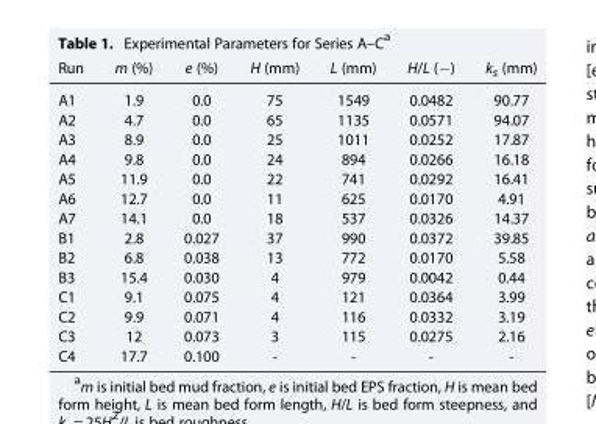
<table><thead><tr><td>Run</td><td>m (%)</td><td>e (%)</td><td>H (mm)</td><td>L (mm)</td><td>H/L (−)</td><td>k<sub>s</sub> (mm)</td></tr></thead><tbody><tr><td>A1</td><td>1.9</td><td>0.0</td><td>75</td><td>1549</td><td>0.0482</td><td>90.77</td></tr><tr><td>A2</td><td>4.7</td><td>0.0</td><td>65</td><td>1135</td><td>0.0571</td><td>94.07</td></tr><tr><td>A3</td><td>8.9</td><td>0.0</td><td>25</td><td>1011</td><td>0.0252</td><td>17.87</td></tr><tr><td>A4</td><td>9.8</td><td>0.0</td><td>24</td><td>894</td><td>0.0266</td><td>16.18</td></tr><tr><td>A5</td><td>11.9</td><td>0.0</td><td>22</td><td>741</td><td>0.0292</td><td>16.41</td></tr><tr><td>A6</td><td>12.7</td><td>0.0</td><td>11</td><td>625</td><td>0.0170</td><td>4.91</td></tr><tr><td>A7</td><td>14.1</td><td>0.0</td><td>18</td><td>537</td><td>0.0326</td><td>14.37</td></tr><tr><td>B1</td><td>2.8</td><td>0.027</td><td>37</td><td>990</td><td>0.0372</td><td>39.85</td></tr><tr><td>B2</td><td>6.8</td><td>0.038</td><td>13</td><td>772</td><td>0.0170</td><td>5.58</td></tr><tr><td>B3</td><td>15.4</td><td>0.030</td><td>4</td><td>979</td><td>0.0042</td><td>0.44</td></tr><tr><td>C1</td><td>9.1</td><td>0.075</td><td>4</td><td>121</td><td>0.0364</td><td>3.99</td></tr><tr><td>C2</td><td>9.9</td><td>0.071</td><td>4</td><td>116</td><td>0.0332</td><td>3.19</td></tr><tr><td>C3</td><td>12</td><td>0.073</td><td>3</td><td>115</td><td>0.0275</td><td>2.16</td></tr><tr><td>C4</td><td>17.7</td><td>0.100</td><td>-</td><td>-</td><td>-</td><td>-</td></tr></tbody></table>